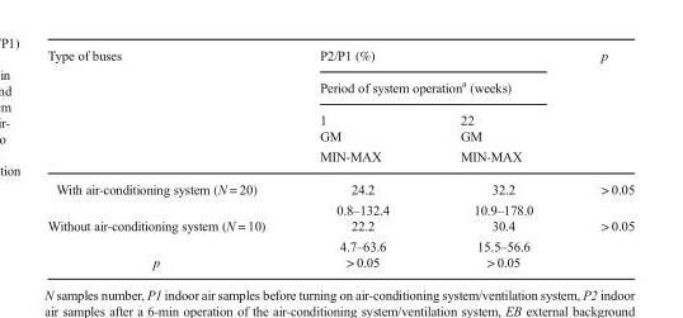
<table><thead><tr><td rowspan="4">Type of buses</td><td rowspan="2" colspan="2">P2/P1 (%) Period of system operation<sup>a</sup> (weeks)</td><td rowspan="4">p</td></tr><tr></tr><tr><td rowspan="2">1 GM MIN-MAX</td><td rowspan="2">22 GM MIN-MAX</td></tr><tr></tr></thead><tbody><tr><td>With air-conditioning system (N = 20)</td><td>24.2 0.8–132.4</td><td>32.2 10.9–178.0</td><td>&gt; 0.05</td></tr><tr><td>Without air-conditioning system (N = 10)</td><td>22.2 4.7–63.6</td><td>30.4 15.5–56.6</td><td>&gt; 0.05</td></tr><tr><td>p</td><td>&gt; 0.05</td><td>&gt; 0.05</td><td></td></tr></tbody></table>